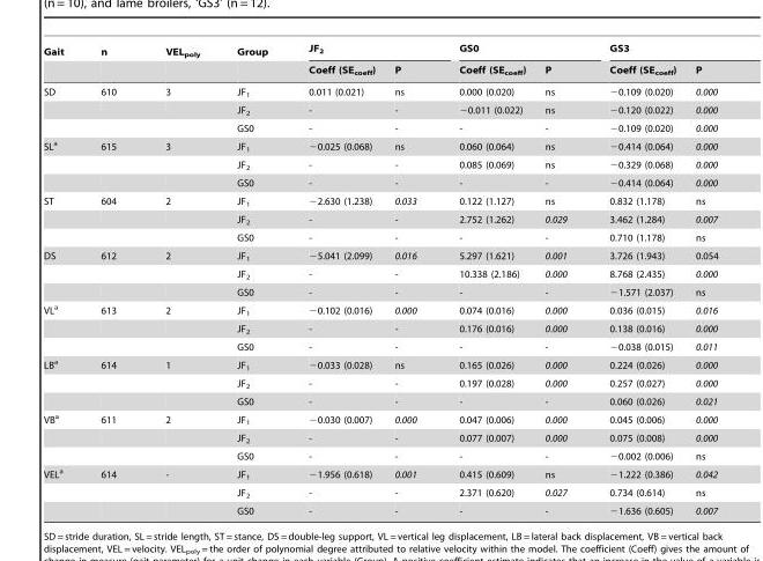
<table><thead><tr><td rowspan="2">Gait</td><td rowspan="2">n</td><td rowspan="2">VEL<sub>poly</sub></td><td rowspan="2">Group</td><td colspan="2">JF<sub>2</sub></td><td colspan="2">GS0</td><td colspan="2">GS3</td></tr><tr><td>Coeff (SE<sub>coeff</sub>)</td><td>P</td><td>Coeff (SE<sub>coeff</sub>)</td><td>P</td><td>Coeff (SE<sub>coeff</sub>)</td><td>P</td></tr></thead><tbody><tr><td rowspan="3">SD</td><td>610</td><td>3</td><td>JF<sub>1</sub></td><td>0.011 (0.021)</td><td>ns</td><td>0.000 (0.020)</td><td>ns</td><td>−0.109 (0.020)</td><td>0.000</td></tr><tr><td></td><td></td><td>JF<sub>2</sub></td><td>-</td><td>-</td><td>−0.011 (0.022)</td><td>ns</td><td>−0.120 (0.022)</td><td>0.000</td></tr><tr><td></td><td></td><td>GS0</td><td>-</td><td>-</td><td>-</td><td>-</td><td>−0.109 (0.020)</td><td>0.000</td></tr><tr><td rowspan="3">SL<sup>a</sup></td><td>615</td><td>3</td><td>JF<sub>1</sub></td><td>−0.025 (0.068)</td><td>ns</td><td>0.060 (0.064)</td><td>ns</td><td>−0.414 (0.064)</td><td>0.000</td></tr><tr><td></td><td></td><td>JF<sub>2</sub></td><td>-</td><td>-</td><td>0.085 (0.069)</td><td>ns</td><td>−0.329 (0.068)</td><td>0.000</td></tr><tr><td></td><td></td><td>GS0</td><td>-</td><td>-</td><td>-</td><td>-</td><td>−0.414 (0.064)</td><td>0.000</td></tr><tr><td rowspan="3">ST</td><td>604</td><td>2</td><td>JF<sub>1</sub></td><td>−2.630 (1.238)</td><td>0.033</td><td>0.122 (1.127)</td><td>ns</td><td>0.832 (1.178)</td><td>ns</td></tr><tr><td></td><td></td><td>JF<sub>2</sub></td><td>-</td><td>-</td><td>2.752 (1.262)</td><td>0.029</td><td>3.462 (1.284)</td><td>0.007</td></tr><tr><td></td><td></td><td>GS0</td><td>-</td><td>-</td><td>-</td><td>-</td><td>0.710 (1.178)</td><td>ns</td></tr><tr><td rowspan="3">DS</td><td>612</td><td>2</td><td>JF<sub>1</sub></td><td>−5.041 (2.099)</td><td>0.016</td><td>5.297 (1.621)</td><td>0.001</td><td>3.726 (1.943)</td><td>0.054</td></tr><tr><td></td><td></td><td>JF<sub>2</sub></td><td>-</td><td>-</td><td>10.338 (2.186)</td><td>0.000</td><td>8.768 (2.435)</td><td>0.000</td></tr><tr><td></td><td></td><td>GS0</td><td>-</td><td>-</td><td>-</td><td>-</td><td>−1.571 (2.037)</td><td>ns</td></tr><tr><td rowspan="3">VL<sup>a</sup></td><td>613</td><td>2</td><td>JF<sub>1</sub></td><td>−0.102 (0.016)</td><td>0.000</td><td>0.074 (0.016)</td><td>0.000</td><td>0.036 (0.015)</td><td>0.016</td></tr><tr><td></td><td></td><td>JF<sub>2</sub></td><td>-</td><td>-</td><td>0.176 (0.016)</td><td>0.000</td><td>0.138 (0.016)</td><td>0.000</td></tr><tr><td></td><td></td><td>GS0</td><td>-</td><td>-</td><td>-</td><td>-</td><td>−0.038 (0.015)</td><td>0.011</td></tr><tr><td rowspan="3">LB<sup>a</sup></td><td>614</td><td>1</td><td>JF<sub>1</sub></td><td>−0.033 (0.028)</td><td>ns</td><td>0.165 (0.026)</td><td>0.000</td><td>0.224 (0.026)</td><td>0.000</td></tr><tr><td></td><td></td><td>JF<sub>2</sub></td><td>-</td><td>-</td><td>0.197 (0.028)</td><td>0.000</td><td>0.257 (0.027)</td><td>0.000</td></tr><tr><td></td><td></td><td>GS0</td><td>-</td><td>-</td><td>-</td><td>-</td><td>0.060 (0.026)</td><td>0.021</td></tr><tr><td rowspan="3">VB<sup>a</sup></td><td>611</td><td>2</td><td>JF<sub>1</sub></td><td>−0.030 (0.007)</td><td>0.000</td><td>0.047 (0.006)</td><td>0.000</td><td>0.045 (0.006)</td><td>0.000</td></tr><tr><td></td><td></td><td>JF<sub>2</sub></td><td>-</td><td>-</td><td>0.077 (0.007)</td><td>0.000</td><td>0.075 (0.008)</td><td>0.000</td></tr><tr><td></td><td></td><td>GS0</td><td>-</td><td>-</td><td>-</td><td>-</td><td>−0.002 (0.006)</td><td>ns</td></tr><tr><td rowspan="3">VEL<sup>a</sup></td><td>614</td><td>-</td><td>JF<sub>1</sub></td><td>−1.956 (0.618)</td><td>0.001</td><td>0.415 (0.609)</td><td>ns</td><td>−1.222 (0.386)</td><td>0.042</td></tr><tr><td></td><td></td><td>JF<sub>2</sub></td><td>-</td><td>-</td><td>2.371 (0.620)</td><td>0.027</td><td>0.734 (0.614)</td><td>ns</td></tr><tr><td></td><td></td><td>GS0</td><td>-</td><td>-</td><td>-</td><td>-</td><td>−1.636 (0.605)</td><td>0.007</td></tr></tbody></table>